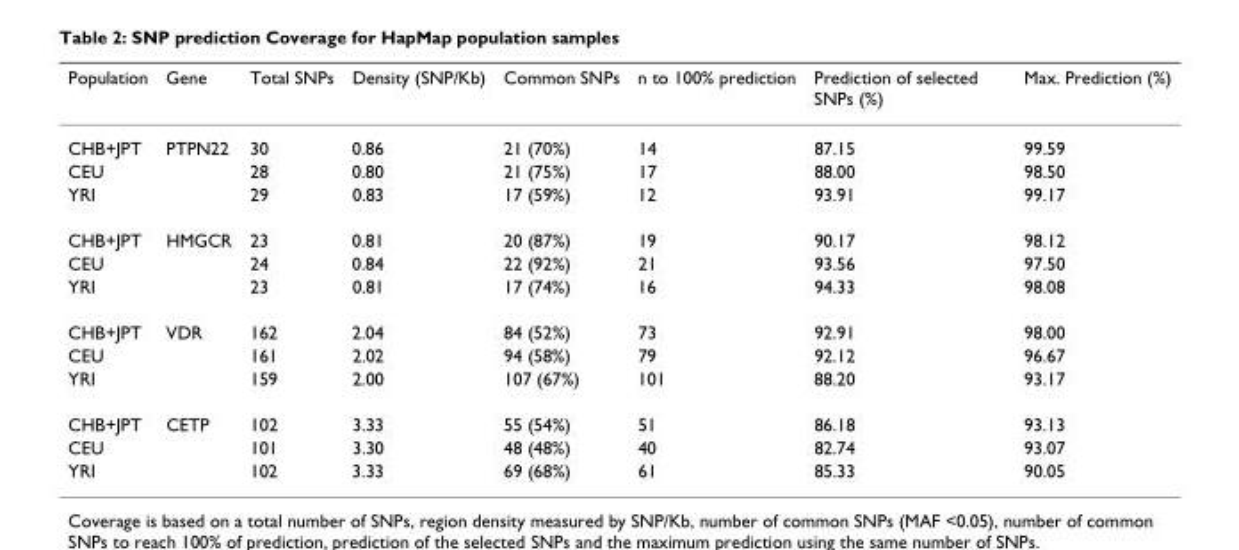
<table><thead><tr><td>Population</td><td>Gene</td><td>Total SNPs</td><td>Density (SNP/Kb)</td><td>Common SNPs</td><td>n to 100% prediction</td><td>Prediction of selected SNPs (%)</td><td>Max. Prediction (%)</td></tr></thead><tbody><tr><td>CHB+JPT</td><td>PTPN22</td><td>30</td><td>0.86</td><td>21 (70%)</td><td>14</td><td>87.15</td><td>99.59</td></tr><tr><td>CEU</td><td></td><td>28</td><td>0.80</td><td>21 (75%)</td><td>17</td><td>88.00</td><td>98.50</td></tr><tr><td>YRI</td><td></td><td>29</td><td>0.83</td><td>17 (59%)</td><td>12</td><td>93.91</td><td>99.17</td></tr><tr><td>CHB+JPT</td><td>HMGCR</td><td>23</td><td>0.81</td><td>20 (87%)</td><td>19</td><td>90.17</td><td>98.12</td></tr><tr><td>CEU</td><td></td><td>24</td><td>0.84</td><td>22 (92%)</td><td>21</td><td>93.56</td><td>97.50</td></tr><tr><td>YRI</td><td></td><td>23</td><td>0.81</td><td>17 (74%)</td><td>16</td><td>94.33</td><td>98.08</td></tr><tr><td>CHB+JPT</td><td>VDR</td><td>162</td><td>2.04</td><td>84 (52%)</td><td>73</td><td>92.91</td><td>98.00</td></tr><tr><td>CEU</td><td></td><td>161</td><td>2.02</td><td>94 (58%)</td><td>79</td><td>92.12</td><td>96.67</td></tr><tr><td>YRI</td><td></td><td>159</td><td>2.00</td><td>107 (67%)</td><td>101</td><td>88.20</td><td>93.17</td></tr><tr><td>CHB+JPT</td><td>CETP</td><td>102</td><td>3.33</td><td>55 (54%)</td><td>51</td><td>86.18</td><td>93.13</td></tr><tr><td>CEU</td><td></td><td>101</td><td>3.30</td><td>48 (48%)</td><td>40</td><td>82.74</td><td>93.07</td></tr><tr><td>YRI</td><td></td><td>102</td><td>3.33</td><td>69 (68%)</td><td>61</td><td>85.33</td><td>90.05</td></tr></tbody></table>